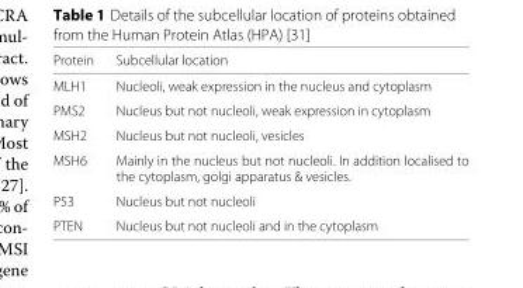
<table><thead><tr><td>Protein</td><td>Subcellular location</td></tr></thead><tbody><tr><td>MLH1</td><td>Nucleoli, weak expression in the nucleus and cytoplasm</td></tr><tr><td>PMS2</td><td>Nucleus but not nucleoli, weak expression in cytoplasm</td></tr><tr><td>MSH2</td><td>Nucleus but not nucleoli, vesicles</td></tr><tr><td>MSH6</td><td>Mainly in the nucleus but not nucleoli. In addition localised to the cytoplasm, golgi apparatus &amp; vesicles.</td></tr><tr><td>P53</td><td>Nucleus but not nucleoli</td></tr><tr><td>PTEN</td><td>Nucleus but not nucleoli and in the cytoplasm</td></tr></tbody></table>